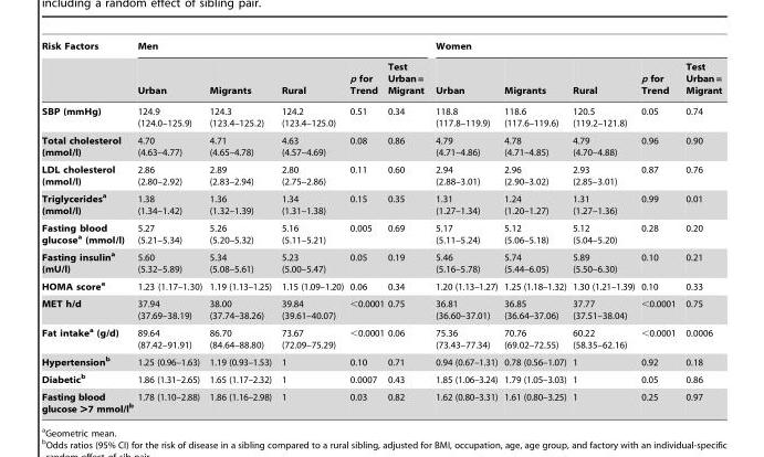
<table><thead><tr><td rowspan="2">Risk Factors</td><td colspan="5">Men</td><td colspan="5">Women</td></tr><tr><td>Urban</td><td>Migrants</td><td>Rural</td><td>p for Trend</td><td>Test Urban= Migrant</td><td>Urban</td><td>Migrants</td><td>Rural</td><td>p for Trend</td><td>Test Urban= Migrant</td></tr></thead><tbody><tr><td>SBP (mmHg)</td><td>124.9 (124.0–125.9)</td><td>124.3 (123.4–125.2)</td><td>124.2 (123.4–125.0)</td><td>0.51</td><td>0.34</td><td>118.8 (117.8–119.9)</td><td>118.6 (117.6–119.6)</td><td>120.5 (119.2–121.8)</td><td>0.05</td><td>0.74</td></tr><tr><td>Total cholesterol (mmol/l)</td><td>4.70 (4.63–4.77)</td><td>4.71 (4.65–4.78)</td><td>4.63 (4.57–4.69)</td><td>0.08</td><td>0.86</td><td>4.79 (4.71–4.86)</td><td>4.78 (4.71–4.85)</td><td>4.79 (4.70–4.88)</td><td>0.96</td><td>0.90</td></tr><tr><td>LDL cholesterol (mmol/l)</td><td>2.86 (2.80–2.92)</td><td>2.89 (2.83–2.94)</td><td>2.80 (2.75–2.86)</td><td>0.11</td><td>0.60</td><td>2.94 (2.88–3.01)</td><td>2.96 (2.90–3.02)</td><td>2.93 (2.85–3.01)</td><td>0.87</td><td>0.76</td></tr><tr><td>Triglyceridesa (mmol/l)</td><td>1.38 (1.34–1.42)</td><td>1.36 (1.32–1.39)</td><td>1.34 (1.31–1.38)</td><td>0.15</td><td>0.35</td><td>1.31 (1.27–1.34)</td><td>1.24 (1.20–1.27)</td><td>1.31 (1.27–1.36)</td><td>0.99</td><td>0.01</td></tr><tr><td>Fasting blood glucosea (mmol/l)</td><td>5.27 (5.21–5.34)</td><td>5.26 (5.20–5.32)</td><td>5.16 (5.11–5.21)</td><td>0.005</td><td>0.69</td><td>5.17 (5.11–5.24)</td><td>5.12 (5.06–5.18)</td><td>5.12 (5.04–5.20)</td><td>0.28</td><td>0.20</td></tr><tr><td>Fasting insulina (mU/l)</td><td>5.60 (5.32–5.89)</td><td>5.34 (5.08–5.61)</td><td>5.23 (5.00–5.47)</td><td>0.05</td><td>0.19</td><td>5.46 (5.16–5.78)</td><td>5.74 (5.44–6.05)</td><td>5.89 (5.50–6.30)</td><td>0.10</td><td>0.21</td></tr><tr><td>HOMA scorea</td><td>1.23 (1.17–1.30)</td><td>1.19 (1.13–1.25)</td><td>1.15 (1.09–1.20)</td><td>0.06</td><td>0.34</td><td>1.20 (1.13–1.27)</td><td>1.25 (1.18–1.32)</td><td>1.30 (1.21–1.39)</td><td>0.10</td><td>0.33</td></tr><tr><td>MET h/d</td><td>37.94 (37.69–38.19)</td><td>38.00 (37.74–38.26)</td><td>39.84 (39.61–40.07)</td><td>&lt;0.0001</td><td>0.75</td><td>36.81 (36.60–37.01)</td><td>36.85 (36.64–37.06)</td><td>37.77 (37.51–38.04)</td><td>&lt;0.0001</td><td>0.75</td></tr><tr><td>Fat intakea (g/d)</td><td>89.64 (87.42–91.91)</td><td>86.70 (84.64–88.80)</td><td>73.67 (72.09–75.29)</td><td>&lt;0.0001</td><td>0.06</td><td>75.36 (73.43–77.34)</td><td>70.76 (69.02–72.55)</td><td>60.22 (58.35–62.16)</td><td>&lt;0.0001</td><td>0.0006</td></tr><tr><td>Hypertensionb</td><td>1.25 (0.96–1.63)</td><td>1.19 (0.93–1.53)</td><td>1</td><td>0.10</td><td>0.71</td><td>0.94 (0.67–1.31)</td><td>0.78 (0.56–1.07)</td><td>1</td><td>0.92</td><td>0.18</td></tr><tr><td>Diabeticb</td><td>1.86 (1.31–2.65)</td><td>1.65 (1.17–2.32)</td><td>1</td><td>0.0007</td><td>0.43</td><td>1.85 (1.06–3.24)</td><td>1.79 (1.05–3.03)</td><td>1</td><td>0.05</td><td>0.86</td></tr><tr><td>Fasting blood glucose &gt;7 mmol/lb</td><td>1.78 (1.10–2.88)</td><td>1.86 (1.16–2.98)</td><td>1</td><td>0.03</td><td>0.82</td><td>1.62 (0.80–3.31)</td><td>1.61 (0.80–3.25)</td><td>1</td><td>0.25</td><td>0.97</td></tr></tbody></table>